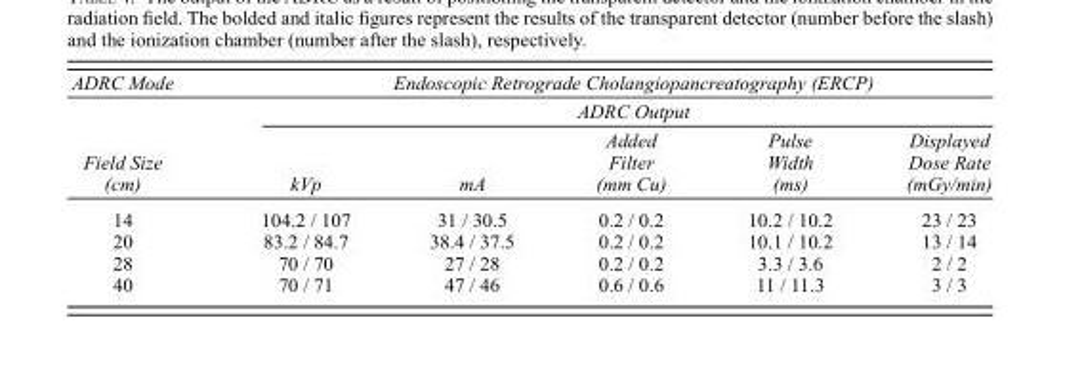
<table><thead><tr><td rowspan="3">ADRC Mode Field Size (cm)</td><td colspan="5">Endoscopic Retrograde Cholangiopancreatography (ERCP)</td></tr><tr><td rowspan="2">kVp</td><td rowspan="2">mA</td><td rowspan="2">ADRC Output Added Filter (mm Cu)</td><td rowspan="2">Pulse Width (ms)</td><td rowspan="2">Displayed Dose Rate (mGy/min)</td></tr><tr></tr></thead><tbody><tr><td>14</td><td>104.2 / 107</td><td>31 / 30.5</td><td>0.2 / 0.2</td><td>10.2 / 10.2</td><td>23 / 23</td></tr><tr><td>20</td><td>83.2 / 84.7</td><td>38.4 / 37.5</td><td>0.2 / 0.2</td><td>10.1 / 10.2</td><td>13 / 14</td></tr><tr><td>28</td><td>70 / 70</td><td>27 / 28</td><td>0.2 / 0.2</td><td>3.3 / 3.6</td><td>2 / 2</td></tr><tr><td>40</td><td>70 / 71</td><td>47 / 46</td><td>0.6 / 0.6</td><td>11 / 11.3</td><td>3 / 3</td></tr></tbody></table>